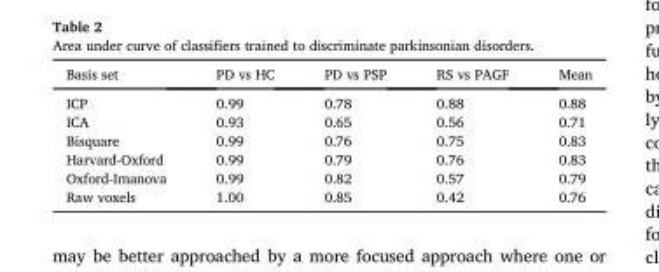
<table><thead><tr><td>Basis set</td><td>PD vs HC</td><td>PD vs PSP</td><td>RS vs PAGF</td><td>Mean</td></tr></thead><tbody><tr><td>ICP</td><td>0.99</td><td>0.78</td><td>0.88</td><td>0.88</td></tr><tr><td>ICA</td><td>0.93</td><td>0.65</td><td>0.56</td><td>0.71</td></tr><tr><td>Bisquare</td><td>0.99</td><td>0.76</td><td>0.75</td><td>0.83</td></tr><tr><td>Harvard-Oxford</td><td>0.99</td><td>0.79</td><td>0.76</td><td>0.83</td></tr><tr><td>Oxford-Imanova</td><td>0.99</td><td>0.82</td><td>0.57</td><td>0.79</td></tr><tr><td>Raw voxels</td><td>1.00</td><td>0.85</td><td>0.42</td><td>0.76</td></tr></tbody></table>